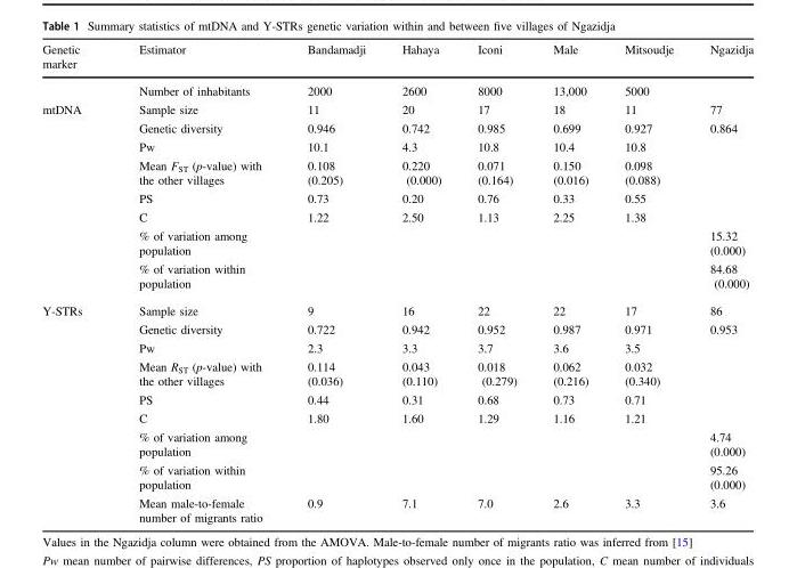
<table><thead><tr><td>Genetic marker</td><td>Estimator</td><td>Bandamadji</td><td>Hahaya</td><td>Iconi</td><td>Male</td><td>Mitsoudje</td><td>Ngazidja</td></tr></thead><tbody><tr><td></td><td>Number of inhabitants</td><td>2000</td><td>2600</td><td>8000</td><td>13,000</td><td>5000</td><td></td></tr><tr><td rowspan="8">mtDNA</td><td>Sample size</td><td>11</td><td>20</td><td>17</td><td>18</td><td>11</td><td>77</td></tr><tr><td>Genetic diversity</td><td>0.946</td><td>0.742</td><td>0.985</td><td>0.699</td><td>0.927</td><td>0.864</td></tr><tr><td>Pw</td><td>10.1</td><td>4.3</td><td>10.8</td><td>10.4</td><td>10.8</td><td></td></tr><tr><td>Mean F<sub>ST</sub> (p-value) with the other villages</td><td>0.108 (0.205)</td><td>0.220 (0.000)</td><td>0.071 (0.164)</td><td>0.150 (0.016)</td><td>0.098 (0.088)</td><td></td></tr><tr><td>PS</td><td>0.73</td><td>0.20</td><td>0.76</td><td>0.33</td><td>0.55</td><td></td></tr><tr><td>C</td><td>1.22</td><td>2.50</td><td>1.13</td><td>2.25</td><td>1.38</td><td></td></tr><tr><td>% of variation among population</td><td></td><td></td><td></td><td></td><td></td><td>15.32 (0.000)</td></tr><tr><td>% of variation within population</td><td></td><td></td><td></td><td></td><td></td><td>84.68 (0.000)</td></tr><tr><td rowspan="9">Y-STRs</td><td>Sample size</td><td>9</td><td>16</td><td>22</td><td>22</td><td>17</td><td>86</td></tr><tr><td>Genetic diversity</td><td>0.722</td><td>0.942</td><td>0.952</td><td>0.987</td><td>0.971</td><td>0.953</td></tr><tr><td>Pw</td><td>2.3</td><td>3.3</td><td>3.7</td><td>3.6</td><td>3.5</td><td></td></tr><tr><td>Mean R<sub>ST</sub> (p-value) with the other villages</td><td>0.114 (0.036)</td><td>0.043 (0.110)</td><td>0.018 (0.279)</td><td>0.062 (0.216)</td><td>0.032 (0.340)</td><td></td></tr><tr><td>PS</td><td>0.44</td><td>0.31</td><td>0.68</td><td>0.73</td><td>0.71</td><td></td></tr><tr><td>C</td><td>1.80</td><td>1.60</td><td>1.29</td><td>1.16</td><td>1.21</td><td></td></tr><tr><td>% of variation among population</td><td></td><td></td><td></td><td></td><td></td><td>4.74 (0.000)</td></tr><tr><td>% of variation within population</td><td></td><td></td><td></td><td></td><td></td><td>95.26 (0.000)</td></tr><tr><td>Mean male-to-female number of migrants ratio</td><td>0.9</td><td>7.1</td><td>7.0</td><td>2.6</td><td>3.3</td><td>3.6</td></tr></tbody></table>